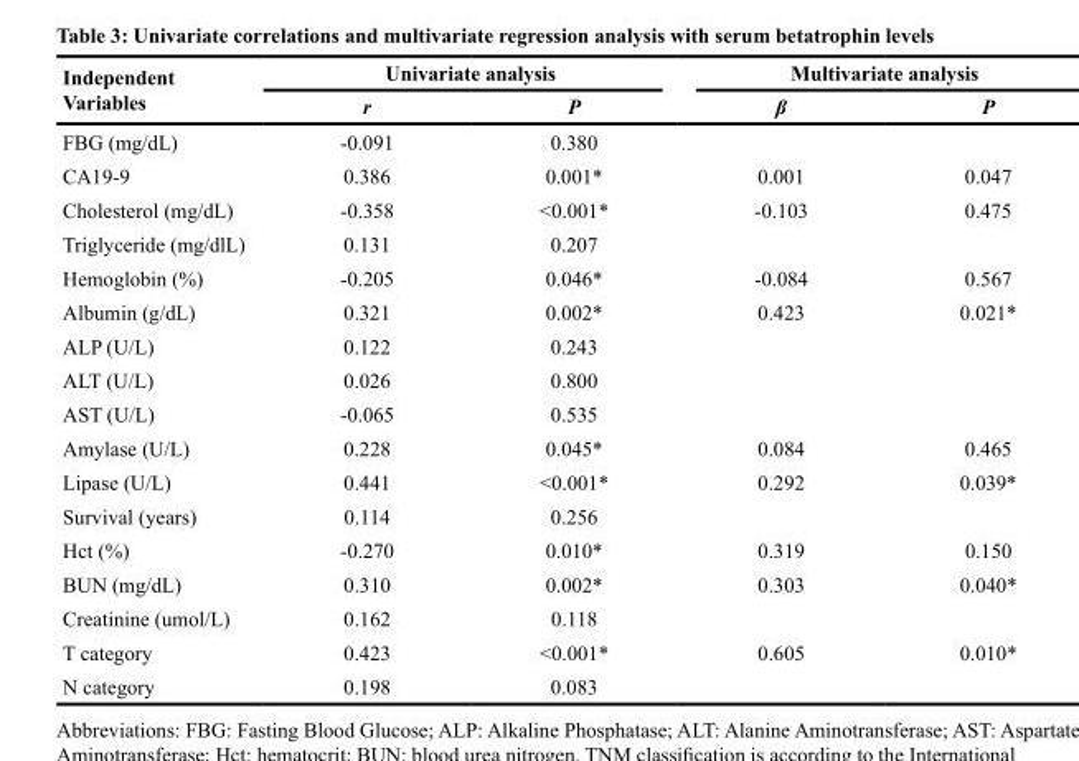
<table><thead><tr><td rowspan="2">Independent Variables</td><td colspan="2">Univariate analysis</td><td colspan="2">Multivariate analysis</td></tr><tr><td>r</td><td>P</td><td>β</td><td>P</td></tr></thead><tbody><tr><td>FBG (mg/dL)</td><td>-0.091</td><td>0.380</td><td></td><td></td></tr><tr><td>CA19-9</td><td>0.386</td><td>0.001*</td><td>0.001</td><td>0.047</td></tr><tr><td>Cholesterol (mg/dL)</td><td>-0.358</td><td>&lt;0.001*</td><td>-0.103</td><td>0.475</td></tr><tr><td>Triglyceride (mg/dlL)</td><td>0.131</td><td>0.207</td><td></td><td></td></tr><tr><td>Hemoglobin (%)</td><td>-0.205</td><td>0.046*</td><td>-0.084</td><td>0.567</td></tr><tr><td>Albumin (g/dL)</td><td>0.321</td><td>0.002*</td><td>0.423</td><td>0.021*</td></tr><tr><td>ALP (U/L)</td><td>0.122</td><td>0.243</td><td></td><td></td></tr><tr><td>ALT (U/L)</td><td>0.026</td><td>0.800</td><td></td><td></td></tr><tr><td>AST (U/L)</td><td>-0.065</td><td>0.535</td><td></td><td></td></tr><tr><td>Amylase (U/L)</td><td>0.228</td><td>0.045*</td><td>0.084</td><td>0.465</td></tr><tr><td>Lipase (U/L)</td><td>0.441</td><td>&lt;0.001*</td><td>0.292</td><td>0.039*</td></tr><tr><td>Survival (years)</td><td>0.114</td><td>0.256</td><td></td><td></td></tr><tr><td>Hct (%)</td><td>-0.270</td><td>0.010*</td><td>0.319</td><td>0.150</td></tr><tr><td>BUN (mg/dL)</td><td>0.310</td><td>0.002*</td><td>0.303</td><td>0.040*</td></tr><tr><td>Creatinine (umol/L)</td><td>0.162</td><td>0.118</td><td></td><td></td></tr><tr><td>T category</td><td>0.423</td><td>&lt;0.001*</td><td>0.605</td><td>0.010*</td></tr><tr><td>N category</td><td>0.198</td><td>0.083</td><td></td><td></td></tr></tbody></table>